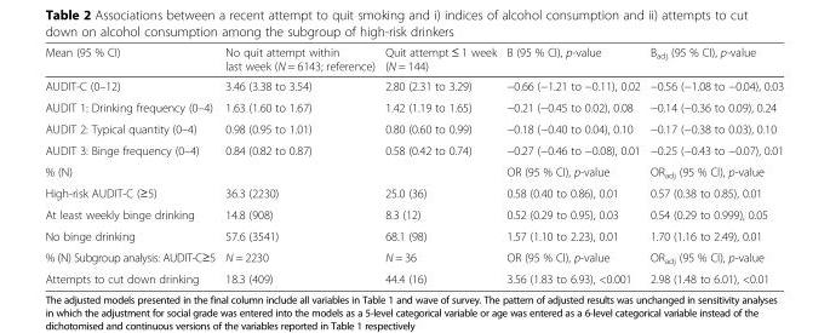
<table><thead><tr><td>Mean (95 % CI)</td><td>No quit attempt within last week (N = 6143; reference)</td><td>Quit attempt ≤ 1 week (N = 144)</td><td>B (95 % CI), p-value</td><td>B<sub>adj</sub> (95 % CI), p-value</td></tr></thead><tbody><tr><td>AUDIT-C (0–12)</td><td>3.46 (3.38 to 3.54)</td><td>2.80 (2.31 to 3.29)</td><td>−0.66 (−1.21 to −0.11), 0.02</td><td>−0.56 (−1.08 to −0.04), 0.03</td></tr><tr><td>AUDIT 1: Drinking frequency (0–4)</td><td>1.63 (1.60 to 1.67)</td><td>1.42 (1.19 to 1.65)</td><td>−0.21 (−0.45 to 0.02), 0.08</td><td>−0.14 (−0.36 to 0.09), 0.24</td></tr><tr><td>AUDIT 2: Typical quantity (0–4)</td><td>0.98 (0.95 to 1.01)</td><td>0.80 (0.60 to 0.99)</td><td>−0.18 (−0.40 to 0.04), 0.10</td><td>−0.17 (−0.38 to 0.03), 0.10</td></tr><tr><td>AUDIT 3: Binge frequency (0–4)</td><td>0.84 (0.82 to 0.87)</td><td>0.58 (0.42 to 0.74)</td><td>−0.27 (−0.46 to −0.08), 0.01</td><td>−0.25 (−0.43 to −0.07), 0.01</td></tr><tr><td>% (N)</td><td></td><td></td><td>OR (95 % CI), p-value</td><td>OR<sub>adj</sub> (95 % CI), p-value</td></tr><tr><td>High-risk AUDIT-C (≥5)</td><td>36.3 (2230)</td><td>25.0 (36)</td><td>0.58 (0.40 to 0.86), 0.01</td><td>0.57 (0.38 to 0.85), 0.01</td></tr><tr><td>At least weekly binge drinking</td><td>14.8 (908)</td><td>8.3 (12)</td><td>0.52 (0.29 to 0.95), 0.03</td><td>0.54 (0.29 to 0.999), 0.05</td></tr><tr><td>No binge drinking</td><td>57.6 (3541)</td><td>68.1 (98)</td><td>1.57 (1.10 to 2.23), 0.01</td><td>1.70 (1.16 to 2.49), 0.01</td></tr><tr><td>% (N) Subgroup analysis: AUDIT-C≥5</td><td>N = 2230</td><td>N = 36</td><td>OR (95 % CI), p-value</td><td>OR<sub>adj</sub> (95 % CI), p-value</td></tr><tr><td>Attempts to cut down drinking</td><td>18.3 (409)</td><td>44.4 (16)</td><td>3.56 (1.83 to 6.93), &lt;0.001</td><td>2.98 (1.48 to 6.01), &lt;0.01</td></tr></tbody></table>